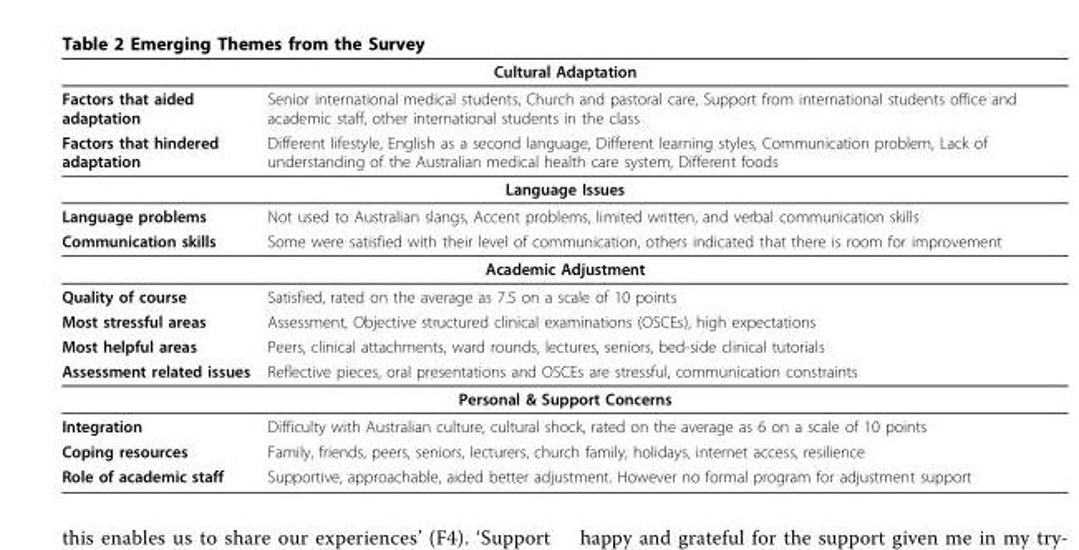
<table><thead><tr><td colspan="2">Cultural Adaptation</td></tr><tr><td>Factors that aided adaptation</td><td>Senior international medical students, Church and pastoral care, Support from international students office and academic staff, other international students in the class</td></tr></thead><tbody><tr><td>Factors that hindered adaptation</td><td>Different lifestyle, English as a second language, Different learning styles, Communication problem, Lack of understanding of the Australian medical health care system, Different foods</td></tr><tr><td colspan="2">Language Issues</td></tr><tr><td>Language problems</td><td>Not used to Australian slangs, Accent problems, limited written, and verbal communication skills</td></tr><tr><td>Communication skills</td><td>Some were satisfied with their level of communication, others indicated that there is room for improvement</td></tr><tr><td colspan="2">Academic Adjustment</td></tr><tr><td>Quality of course</td><td>Satisfied, rated on the average as 7.5 on a scale of 10 points</td></tr><tr><td>Most stressful areas</td><td>Assessment, Objective structured clinical examinations (OSCEs), high expectations</td></tr><tr><td>Most helpful areas</td><td>Peers, clinical attachments, ward rounds, lectures, seniors, bed-side clinical tutorials</td></tr><tr><td>Assessment related issues</td><td>Reflective pieces, oral presentations and OSCEs are stressful, communication constraints</td></tr><tr><td colspan="2">Personal &amp; Support Concerns</td></tr><tr><td>Integration</td><td>Difficulty with Australian culture, cultural shock, rated on the average as 6 on a scale of 10 points</td></tr><tr><td>Coping resources</td><td>Family, friends, peers, seniors, lecturers, church family, holidays, internet access, resilience</td></tr><tr><td>Role of academic staff</td><td>Supportive, approachable, aided better adjustment. However no formal program for adjustment support</td></tr></tbody></table>